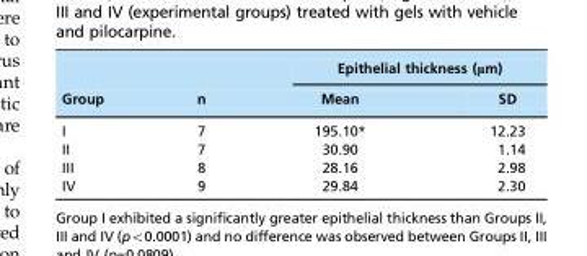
<table><thead><tr><td rowspan="2">Group</td><td rowspan="2">n</td><td colspan="2">Epithelial thickness (µm)</td></tr><tr><td>Mean</td><td>SD</td></tr></thead><tbody><tr><td>I</td><td>7</td><td>195.10*</td><td>12.23</td></tr><tr><td>II</td><td>7</td><td>30.90</td><td>1.14</td></tr><tr><td>III</td><td>8</td><td>28.16</td><td>2.98</td></tr><tr><td>IV</td><td>9</td><td>29.84</td><td>2.30</td></tr></tbody></table>